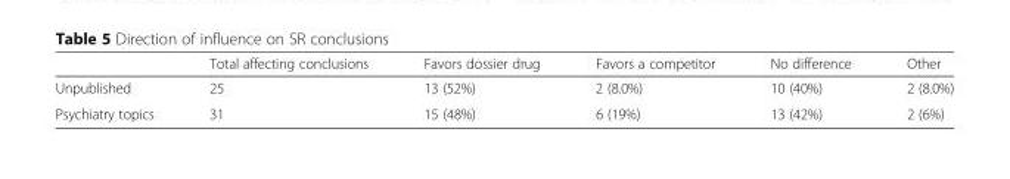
<table><thead><tr><td></td><td>Total affecting conclusions</td><td>Favors dossier drug</td><td>Favors a competitor</td><td>No difference</td><td>Other</td></tr></thead><tbody><tr><td>Unpublished</td><td>25</td><td>13 (52%)</td><td>2 (8.0%)</td><td>10 (40%)</td><td>2 (8.0%)</td></tr><tr><td>Psychiatry topics</td><td>31</td><td>15 (48%)</td><td>6 (19%)</td><td>13 (42%)</td><td>2 (6%)</td></tr></tbody></table>